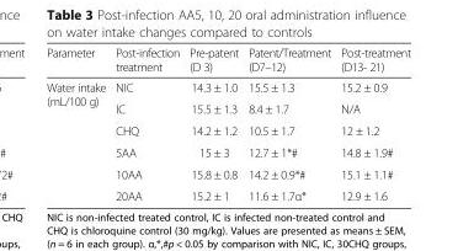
<table><thead><tr><td>Parameter</td><td>Post-infection treatment</td><td>Pre-patent (D 3)</td><td>Patent/Treatment (D7–12)</td><td>Post-treatment (D13- 21)</td></tr></thead><tbody><tr><td rowspan="6">Water intake (mL/100 g)</td><td>NIC</td><td>14.3 ± 1.0</td><td>15.5 ± 1.3</td><td>15.2 ± 0.9</td></tr><tr><td>IC</td><td>15.5 ± 1.3</td><td>8.4 ± 1.7</td><td>N/A</td></tr><tr><td>CHQ</td><td>14.2 ± 1.2</td><td>10.5 ± 1.7</td><td>12 ± 1.2</td></tr><tr><td>5AA</td><td>15 ± 3</td><td>12.7 ± 1*#</td><td>14.8 ± 1.9#</td></tr><tr><td>10AA</td><td>15.8 ± 0.8</td><td>14.2 ± 0.9*#</td><td>15.1 ± 1.1#</td></tr><tr><td>20AA</td><td>15.2 ± 1</td><td>11.6 ± 1.7α*</td><td>12.9 ± 1.6</td></tr></tbody></table>